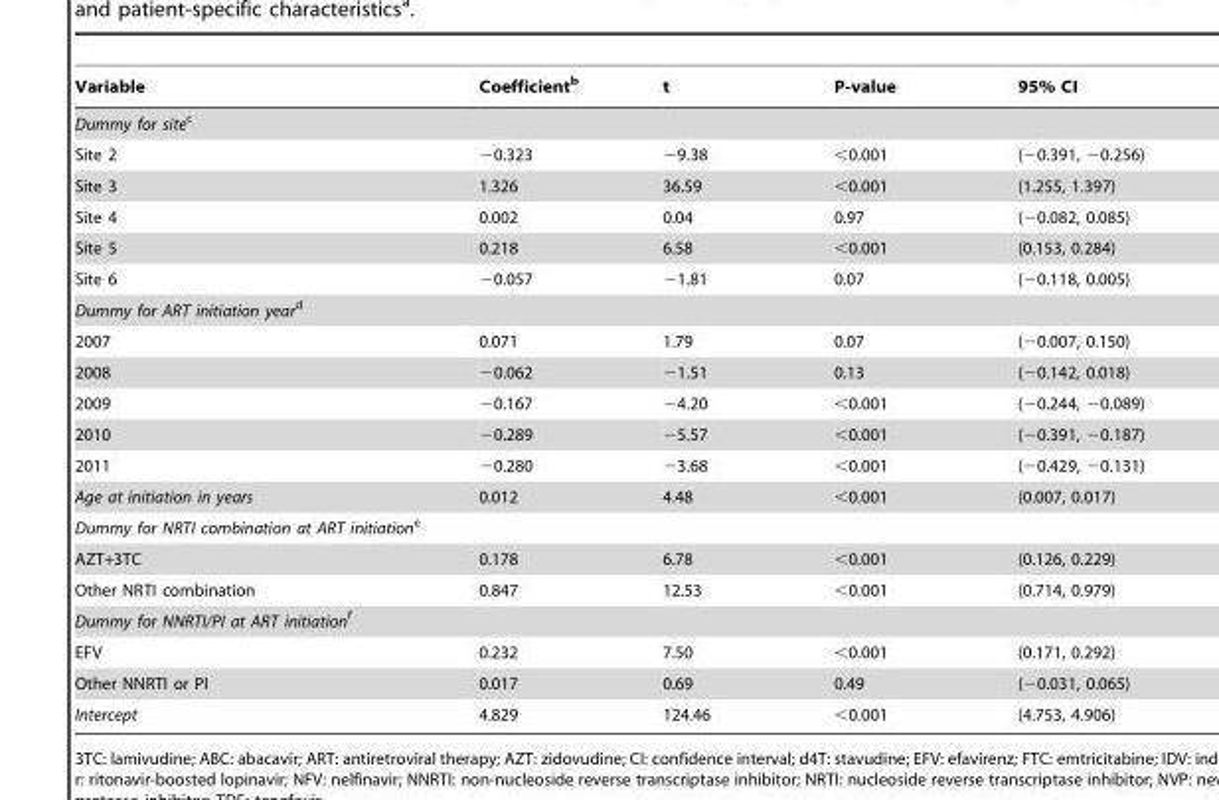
<table><thead><tr><td>Variable</td><td>Coefficient<sup>b</sup></td><td>t</td><td>P-value</td><td>95% CI</td></tr></thead><tbody><tr><td colspan="5">Dummy for sitec</td></tr><tr><td>Site 2</td><td>−0.323</td><td>−9.38</td><td>&lt;0.001</td><td>(−0.391, −0.256)</td></tr><tr><td>Site 3</td><td>1.326</td><td>36.59</td><td>&lt;0.001</td><td>(1.255, 1.397)</td></tr><tr><td>Site 4</td><td>0.002</td><td>0.04</td><td>0.97</td><td>(−0.082, 0.085)</td></tr><tr><td>Site 5</td><td>0.218</td><td>6.58</td><td>&lt;0.001</td><td>(0.153, 0.284)</td></tr><tr><td>Site 6</td><td>−0.057</td><td>−1.81</td><td>0.07</td><td>(−0.118, 0.005)</td></tr><tr><td colspan="5">Dummy for ART initiation yeard</td></tr><tr><td>2007</td><td>0.071</td><td>1.79</td><td>0.07</td><td>(−0.007, 0.150)</td></tr><tr><td>2008</td><td>−0.062</td><td>−1.51</td><td>0.13</td><td>(−0.142, 0.018)</td></tr><tr><td>2009</td><td>−0.167</td><td>−4.20</td><td>&lt;0.001</td><td>(−0.244, −0.089)</td></tr><tr><td>2010</td><td>−0.289</td><td>−5.57</td><td>&lt;0.001</td><td>(−0.391, −0.187)</td></tr><tr><td>2011</td><td>−0.280</td><td>−3.68</td><td>&lt;0.001</td><td>(−0.429, −0.131)</td></tr><tr><td>Age at initiation in years</td><td>0.012</td><td>4.48</td><td>&lt;0.001</td><td>(0.007, 0.017)</td></tr><tr><td colspan="5">Dummy for NRTI combination at ART initiatione</td></tr><tr><td>AZT+3TC</td><td>0.178</td><td>6.78</td><td>&lt;0.001</td><td>(0.126, 0.229)</td></tr><tr><td>Other NRTI combination</td><td>0.847</td><td>12.53</td><td>&lt;0.001</td><td>(0.714, 0.979)</td></tr><tr><td colspan="5">Dummy for NNRTI/PI at ART initiationf</td></tr><tr><td>EFV</td><td>0.232</td><td>7.50</td><td>&lt;0.001</td><td>(0.171, 0.292)</td></tr><tr><td>Other NNRTI or PI</td><td>0.017</td><td>0.69</td><td>0.49</td><td>(−0.031, 0.065)</td></tr><tr><td>Intercept</td><td>4.829</td><td>124.46</td><td>&lt;0.001</td><td>(4.753, 4.906)</td></tr></tbody></table>